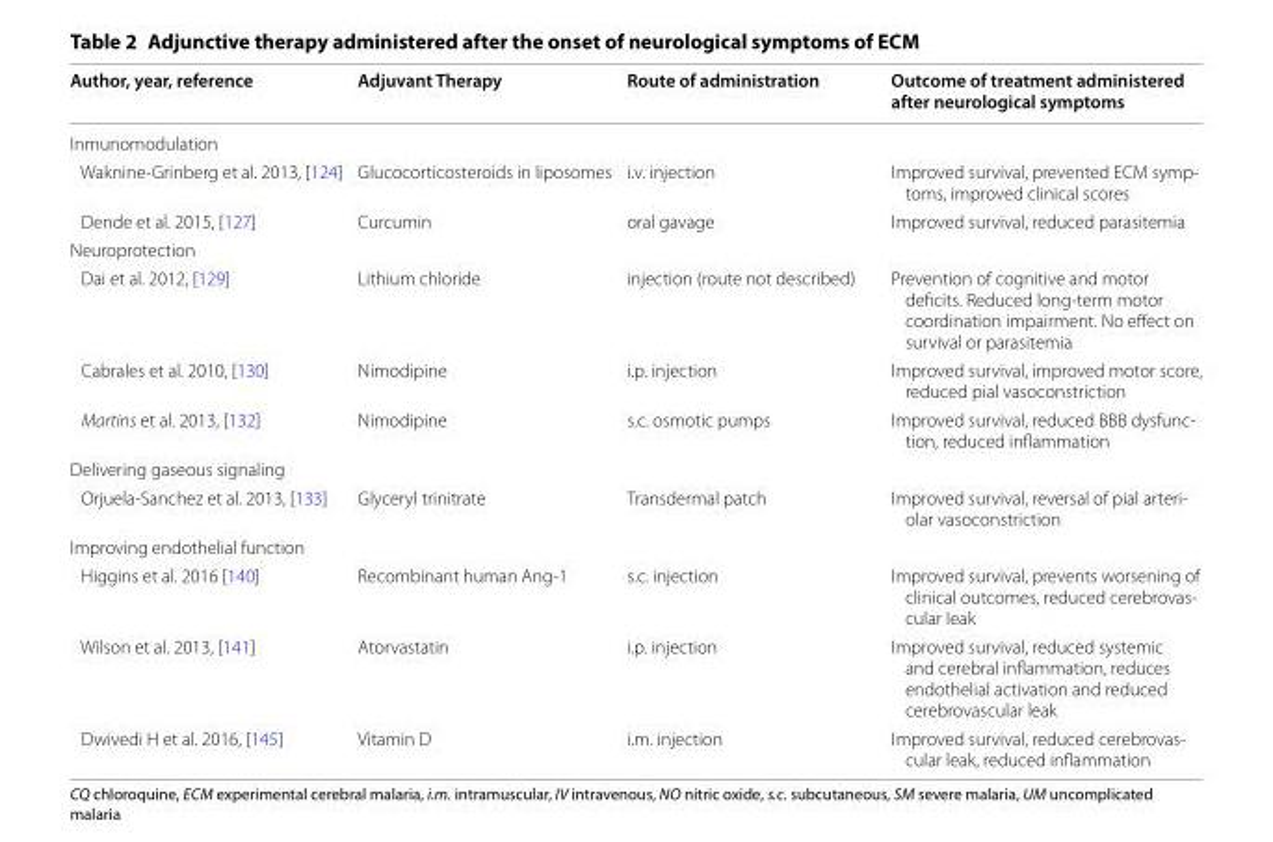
<table><thead><tr><td>Author, year, reference</td><td>Adjuvant Therapy</td><td>Route of administration</td><td>Outcome of treatment administered after neurological symptoms</td></tr></thead><tbody><tr><td colspan="4">Inmunomodulation</td></tr><tr><td>Waknine-Grinberg et al. 2013, [124]</td><td>Glucocorticosteroids in liposomes</td><td>i.v. injection</td><td>Improved survival, prevented ECM symp- toms, improved clinical scores</td></tr><tr><td>Dende et al. 2015, [127]</td><td>Curcumin</td><td>oral gavage</td><td>Improved survival, reduced parasitemia</td></tr><tr><td colspan="4">Neuroprotection</td></tr><tr><td>Dai et al. 2012, [129]</td><td>Lithium chloride</td><td>injection (route not described)</td><td>Prevention of cognitive and motor deficits. Reduced long-term motor coordination impairment. No effect on survival or parasitemia</td></tr><tr><td>Cabrales et al. 2010, [130]</td><td>Nimodipine</td><td>i.p. injection</td><td>Improved survival, improved motor score, reduced pial vasoconstriction</td></tr><tr><td>Martins et al. 2013, [132]</td><td>Nimodipine</td><td>s.c. osmotic pumps</td><td>Improved survival, reduced BBB dysfunc- tion, reduced inflammation</td></tr><tr><td colspan="4">Delivering gaseous signaling</td></tr><tr><td>Orjuela-Sanchez et al. 2013, [133]</td><td>Glyceryl trinitrate</td><td>Transdermal patch</td><td>Improved survival, reversal of pial arteri- olar vasoconstriction</td></tr><tr><td colspan="4">Improving endothelial function</td></tr><tr><td>Higgins et al. 2016 [140]</td><td>Recombinant human Ang-1</td><td>s.c. injection</td><td>Improved survival, prevents worsening of clinical outcomes, reduced cerebrovas- cular leak</td></tr><tr><td>Wilson et al. 2013, [141]</td><td>Atorvastatin</td><td>i.p. injection</td><td>Improved survival, reduced systemic and cerebral inflammation, reduces endothelial activation and reduced cerebrovascular leak</td></tr><tr><td>Dwivedi H et al. 2016, [145]</td><td>Vitamin D</td><td>i.m. injection</td><td>Improved survival, reduced cerebrovas- cular leak, reduced inflammation</td></tr></tbody></table>